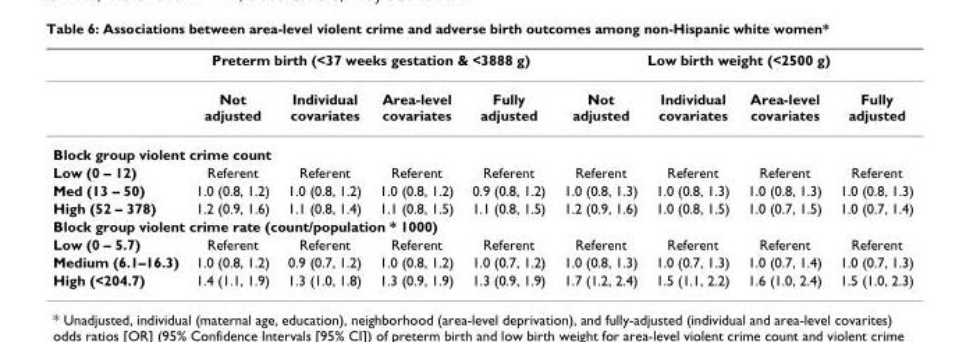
<table><thead><tr><td rowspan="2"></td><td colspan="4">Preterm birth (&lt;37 weeks gestation &amp; &lt;3888 g)</td><td colspan="4">Low birth weight (&lt;2500 g)</td></tr><tr><td>Not adjusted</td><td>Individual covariates</td><td>Area-level covariates</td><td>Fully adjusted</td><td>Not adjusted</td><td>Individual covariates</td><td>Area-level covariates</td><td>Fully adjusted</td></tr></thead><tbody><tr><td colspan="9">Block group violent crime count</td></tr><tr><td>Low (0 – 12)</td><td>Referent</td><td>Referent</td><td>Referent</td><td>Referent</td><td>Referent</td><td>Referent</td><td>Referent</td><td>Referent</td></tr><tr><td>Med (13 – 50)</td><td>1.0 (0.8, 1.2)</td><td>1.0 (0.8, 1.2)</td><td>1.0 (0.8, 1.2)</td><td>0.9 (0.8, 1.2)</td><td>1.0 (0.8, 1.3)</td><td>1.0 (0.8, 1.3)</td><td>1.0 (0.8, 1.3)</td><td>1.0 (0.8, 1.3)</td></tr><tr><td>High (52 – 378)</td><td>1.2 (0.9, 1.6)</td><td>1.1 (0.8, 1.4)</td><td>1.1 (0.8, 1.5)</td><td>1.1 (0.8, 1.5)</td><td>1.2 (0.9, 1.6)</td><td>1.0 (0.8, 1.5)</td><td>1.0 (0.7, 1.5)</td><td>1.0 (0.7, 1.4)</td></tr><tr><td colspan="9">Block group violent crime rate (count/population * 1000)</td></tr><tr><td>Low (0 – 5.7)</td><td>Referent</td><td>Referent</td><td>Referent</td><td>Referent</td><td>Referent</td><td>Referent</td><td>Referent</td><td>Referent</td></tr><tr><td>Medium (6.1–16.3)</td><td>1.0 (0.8, 1.2)</td><td>0.9 (0.7, 1.2)</td><td>1.0 (0.8, 1.2)</td><td>1.0 (0.7, 1.2)</td><td>1.0 (0.8, 1.3)</td><td>1.0 (0.7, 1.3)</td><td>1.0 (0.7, 1.4)</td><td>1.0 (0.7, 1.3)</td></tr><tr><td>High (&lt;204.7)</td><td>1.4 (1.1, 1.9)</td><td>1.3 (1.0, 1.8)</td><td>1.3 (0.9, 1.9)</td><td>1.3 (0.9, 1.9)</td><td>1.7 (1.2, 2.4)</td><td>1.5 (1.1, 2.2)</td><td>1.6 (1.0, 2.4)</td><td>1.5 (1.0, 2.3)</td></tr></tbody></table>